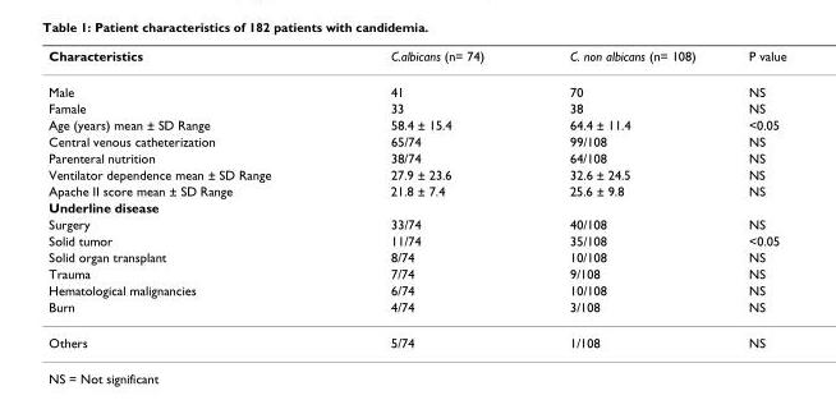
<table><thead><tr><td>Characteristics</td><td>C.albicans (n= 74)</td><td>C. non albicans (n= 108)</td><td>P value</td></tr></thead><tbody><tr><td>Male</td><td>41</td><td>70</td><td>NS</td></tr><tr><td>Famale</td><td>33</td><td>38</td><td>NS</td></tr><tr><td>Age (years) mean ± SD Range</td><td>58.4 ± 15.4</td><td>64.4 ± 11.4</td><td>&lt;0.05</td></tr><tr><td>Central venous catheterization</td><td>65/74</td><td>99/108</td><td>NS</td></tr><tr><td>Parenteral nutrition</td><td>38/74</td><td>64/108</td><td>NS</td></tr><tr><td>Ventilator dependence mean ± SD Range</td><td>27.9 ± 23.6</td><td>32.6 ± 24.5</td><td>NS</td></tr><tr><td>Apache II score mean ± SD Range</td><td>21.8 ± 7.4</td><td>25.6 ± 9.8</td><td>NS</td></tr><tr><td colspan="4">Underline disease</td></tr><tr><td>Surgery</td><td>33/74</td><td>40/108</td><td>NS</td></tr><tr><td>Solid tumor</td><td>11/74</td><td>35/108</td><td>&lt;0.05</td></tr><tr><td>Solid organ transplant</td><td>8/74</td><td>10/108</td><td>NS</td></tr><tr><td>Trauma</td><td>7/74</td><td>9/108</td><td>NS</td></tr><tr><td>Hematological malignancies</td><td>6/74</td><td>10/108</td><td>NS</td></tr><tr><td>Burn</td><td>4/74</td><td>3/108</td><td>NS</td></tr><tr><td>Others</td><td>5/74</td><td>1/108</td><td>NS</td></tr></tbody></table>